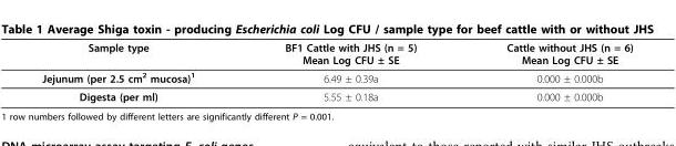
<table><thead><tr><td>Sample type</td><td>BF1 Cattle with JHS (n = 5) Mean Log CFU ± SE</td><td>Cattle without JHS (n = 6) Mean Log CFU ± SE</td></tr></thead><tbody><tr><td>Jejunum (per 2.5 cm<sup>2</sup> mucosa)<sup>1</sup></td><td>6.49 ± 0.39a</td><td>0.000 ± 0.000b</td></tr><tr><td>Digesta (per ml)</td><td>5.55 ± 0.18a</td><td>0.000 ± 0.000b</td></tr></tbody></table>